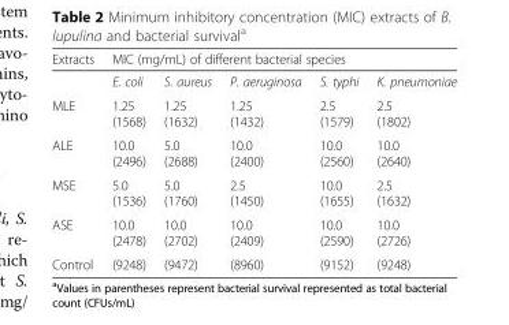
<table><thead><tr><td rowspan="2">Extracts</td><td colspan="5">MIC (mg/mL) of different bacterial species</td></tr><tr><td>E. coli</td><td>S. aureus</td><td>P. aeruginosa</td><td>S. typhi</td><td>K. pneumoniae</td></tr></thead><tbody><tr><td>MLE</td><td>1.25 (1568)</td><td>1.25 (1632)</td><td>1.25 (1432)</td><td>2.5 (1579)</td><td>2.5 (1802)</td></tr><tr><td>ALE</td><td>10.0 (2496)</td><td>5.0 (2688)</td><td>10.0 (2400)</td><td>10.0 (2560)</td><td>10.0 (2640)</td></tr><tr><td>MSE</td><td>5.0 (1536)</td><td>5.0 (1760)</td><td>2.5 (1450)</td><td>10.0 (1655)</td><td>2.5 (1632)</td></tr><tr><td>ASE</td><td>10.0 (2478)</td><td>10.0 (2702)</td><td>10.0 (2409)</td><td>10.0 (2590)</td><td>10.0 (2726)</td></tr><tr><td>Control</td><td>(9248)</td><td>(9472)</td><td>(8960)</td><td>(9152)</td><td>(9248)</td></tr></tbody></table>